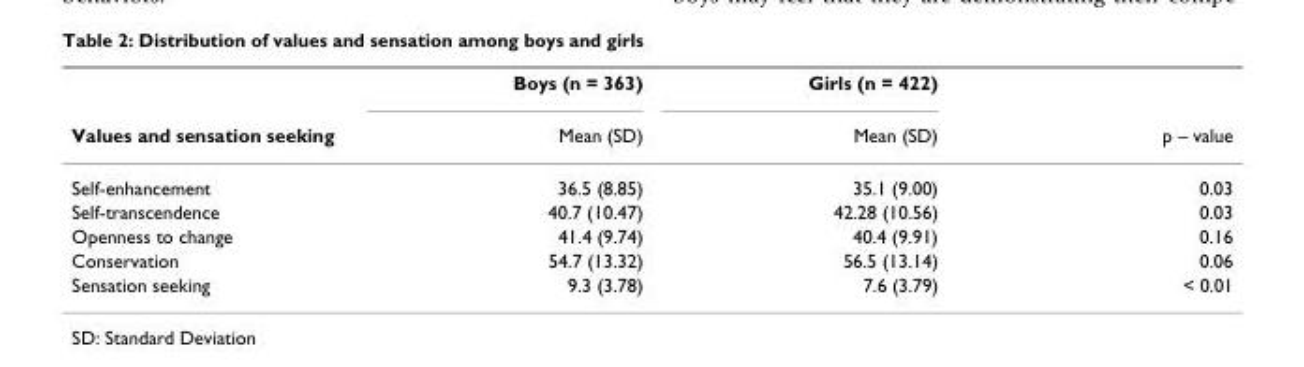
<table><thead><tr><td rowspan="2">Values and sensation seeking</td><td rowspan="2">Boys (n = 363) Mean (SD)</td><td rowspan="2">Girls (n = 422) Mean (SD)</td><td rowspan="2">p – value</td></tr><tr></tr></thead><tbody><tr><td>Self-enhancement</td><td>36.5 (8.85)</td><td>35.1 (9.00)</td><td>0.03</td></tr><tr><td>Self-transcendence</td><td>40.7 (10.47)</td><td>42.28 (10.56)</td><td>0.03</td></tr><tr><td>Openness to change</td><td>41.4 (9.74)</td><td>40.4 (9.91)</td><td>0.16</td></tr><tr><td>Conservation</td><td>54.7 (13.32)</td><td>56.5 (13.14)</td><td>0.06</td></tr><tr><td>Sensation seeking</td><td>9.3 (3.78)</td><td>7.6 (3.79)</td><td>&lt; 0.01</td></tr></tbody></table>